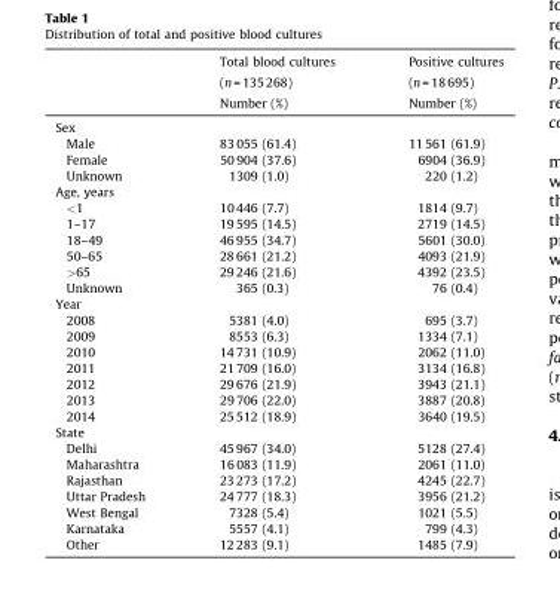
<table><thead><tr><td rowspan="3"></td><td rowspan="3">Total blood cultures (n = 135 268) Number (%)</td><td rowspan="3">Positive cultures (n = 18 695) Number (%)</td></tr><tr></tr><tr></tr></thead><tbody><tr><td colspan="3">Sex</td></tr><tr><td>Male</td><td>83 055 (61.4)</td><td>11 561 (61.9)</td></tr><tr><td>Female</td><td>50 904 (37.6)</td><td>6904 (36.9)</td></tr><tr><td>Unknown</td><td>1309 (1.0)</td><td>220 (1.2)</td></tr><tr><td colspan="3">Age, years</td></tr><tr><td>&lt;1</td><td>10 446 (7.7)</td><td>1814 (9.7)</td></tr><tr><td>1–17</td><td>19 595 (14.5)</td><td>2719 (14.5)</td></tr><tr><td>18–49</td><td>46 955 (34.7)</td><td>5601 (30.0)</td></tr><tr><td>50–65</td><td>28 661 (21.2)</td><td>4093 (21.9)</td></tr><tr><td>&gt;65</td><td>29 246 (21.6)</td><td>4392 (23.5)</td></tr><tr><td>Unknown</td><td>365 (0.3)</td><td>76 (0.4)</td></tr><tr><td colspan="3">Year</td></tr><tr><td>2008</td><td>5381 (4.0)</td><td>695 (3.7)</td></tr><tr><td>2009</td><td>8553 (6.3)</td><td>1334 (7.1)</td></tr><tr><td>2010</td><td>14 731 (10.9)</td><td>2062 (11.0)</td></tr><tr><td>2011</td><td>21 709 (16.0)</td><td>3134 (16.8)</td></tr><tr><td>2012</td><td>29 676 (21.9)</td><td>3943 (21.1)</td></tr><tr><td>2013</td><td>29 706 (22.0)</td><td>3887 (20.8)</td></tr><tr><td>2014</td><td>25 512 (18.9)</td><td>3640 (19.5)</td></tr><tr><td colspan="3">State</td></tr><tr><td>Delhi</td><td>45 967 (34.0)</td><td>5128 (27.4)</td></tr><tr><td>Maharashtra</td><td>16 083 (11.9)</td><td>2061 (11.0)</td></tr><tr><td>Rajasthan</td><td>23 273 (17.2)</td><td>4245 (22.7)</td></tr><tr><td>Uttar Pradesh</td><td>24 777 (18.3)</td><td>3956 (21.2)</td></tr><tr><td>West Bengal</td><td>7328 (5.4)</td><td>1021 (5.5)</td></tr><tr><td>Karnataka</td><td>5557 (4.1)</td><td>799 (4.3)</td></tr><tr><td>Other</td><td>12 283 (9.1)</td><td>1485 (7.9)</td></tr></tbody></table>